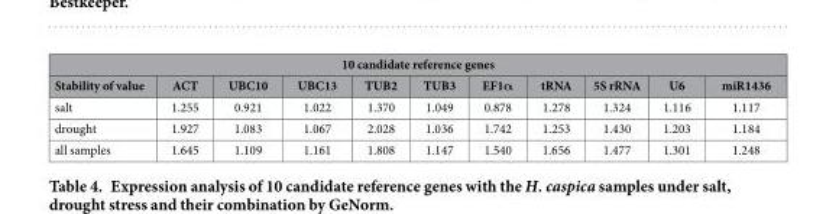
<table><thead><tr><td colspan="11">10 candidate reference genes</td></tr><tr><td>Stability of value</td><td>ACT</td><td>UBC10</td><td>UBC13</td><td>TUB2</td><td>TUB3</td><td>EF1α</td><td>tRNA</td><td>5S rRNA</td><td>U6</td><td>miR1436</td></tr></thead><tbody><tr><td>salt</td><td>1.255</td><td>0.921</td><td>1.022</td><td>1.370</td><td>1.049</td><td>0.878</td><td>1.278</td><td>1.324</td><td>1.116</td><td>1.117</td></tr><tr><td>drought</td><td>1.927</td><td>1.083</td><td>1.067</td><td>2.028</td><td>1.036</td><td>1.742</td><td>1.253</td><td>1.430</td><td>1.203</td><td>1.184</td></tr><tr><td>all samples</td><td>1.645</td><td>1.109</td><td>1.161</td><td>1.808</td><td>1.147</td><td>1.540</td><td>1.656</td><td>1.477</td><td>1.301</td><td>1.248</td></tr></tbody></table>